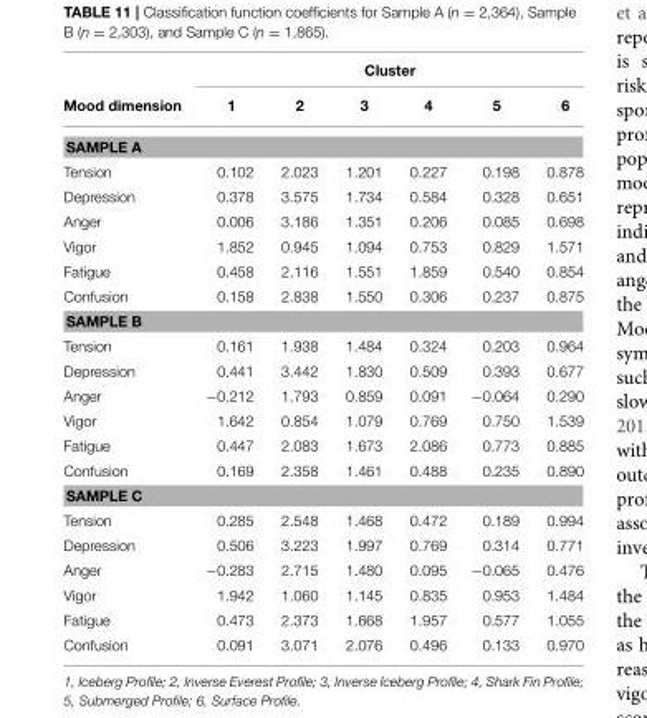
<table><thead><tr><td rowspan="2">Mood dimension</td><td colspan="6">Cluster</td></tr><tr><td>1</td><td>2</td><td>3</td><td>4</td><td>5</td><td>6</td></tr></thead><tbody><tr><td colspan="7">SAMPLE A</td></tr><tr><td>Tension</td><td>0.102</td><td>2.023</td><td>1.201</td><td>0.227</td><td>0.198</td><td>0.878</td></tr><tr><td>Depression</td><td>0.378</td><td>3.575</td><td>1.734</td><td>0.584</td><td>0.328</td><td>0.651</td></tr><tr><td>Anger</td><td>0.006</td><td>3.186</td><td>1.351</td><td>0.206</td><td>0.085</td><td>0.698</td></tr><tr><td>Vigor</td><td>1.852</td><td>0.945</td><td>1.094</td><td>0.753</td><td>0.829</td><td>1.571</td></tr><tr><td>Fatigue</td><td>0.458</td><td>2.116</td><td>1.551</td><td>1.859</td><td>0.540</td><td>0.854</td></tr><tr><td>Confusion</td><td>0.158</td><td>2.838</td><td>1.550</td><td>0.306</td><td>0.237</td><td>0.875</td></tr><tr><td colspan="7">SAMPLE B</td></tr><tr><td>Tension</td><td>0.161</td><td>1.938</td><td>1.484</td><td>0.324</td><td>0.203</td><td>0.964</td></tr><tr><td>Depression</td><td>0.441</td><td>3.442</td><td>1.830</td><td>0.509</td><td>0.393</td><td>0.677</td></tr><tr><td>Anger</td><td>−0.212</td><td>1.793</td><td>0.859</td><td>0.091</td><td>−0.064</td><td>0.290</td></tr><tr><td>Vigor</td><td>1.642</td><td>0.854</td><td>1.079</td><td>0.769</td><td>0.750</td><td>1.539</td></tr><tr><td>Fatigue</td><td>0.447</td><td>2.083</td><td>1.673</td><td>2.086</td><td>0.773</td><td>0.885</td></tr><tr><td>Confusion</td><td>0.169</td><td>2.358</td><td>1.461</td><td>0.488</td><td>0.235</td><td>0.890</td></tr><tr><td colspan="7">SAMPLE C</td></tr><tr><td>Tension</td><td>0.285</td><td>2.548</td><td>1.468</td><td>0.472</td><td>0.189</td><td>0.994</td></tr><tr><td>Depression</td><td>0.506</td><td>3.223</td><td>1.997</td><td>0.769</td><td>0.314</td><td>0.771</td></tr><tr><td>Anger</td><td>−0.283</td><td>2.715</td><td>1.480</td><td>0.095</td><td>−0.065</td><td>0.476</td></tr><tr><td>Vigor</td><td>1.942</td><td>1.060</td><td>1.145</td><td>0.835</td><td>0.953</td><td>1.484</td></tr><tr><td>Fatigue</td><td>0.473</td><td>2.373</td><td>1.668</td><td>1.957</td><td>0.577</td><td>1.055</td></tr><tr><td>Confusion</td><td>0.091</td><td>3.071</td><td>2.076</td><td>0.496</td><td>0.133</td><td>0.970</td></tr></tbody></table>